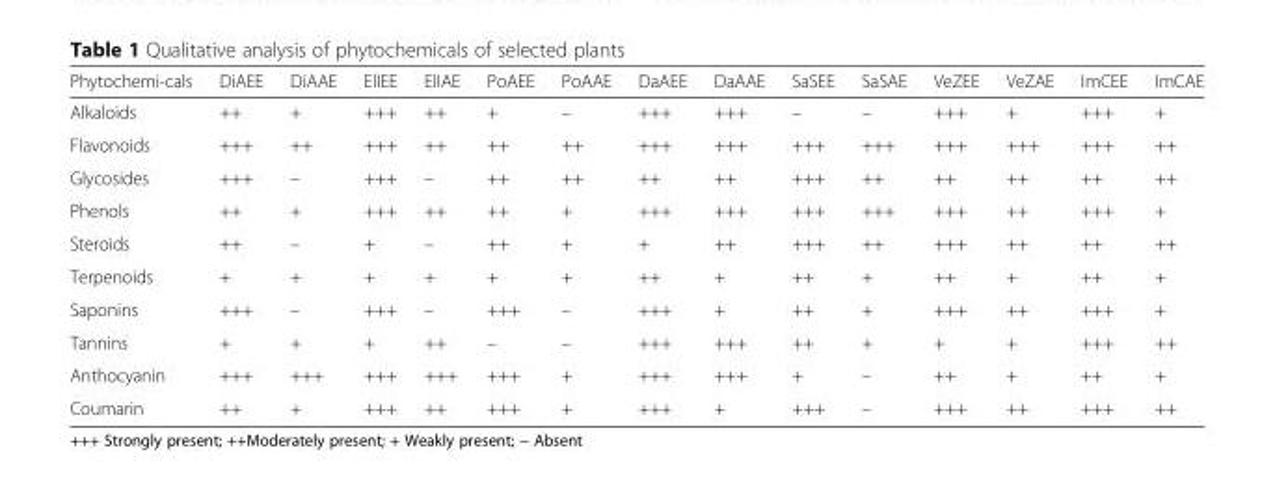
<table><thead><tr><td>Phytochemi-cals</td><td>DiAEE</td><td>DiAAE</td><td>ElIEE</td><td>ElIAE</td><td>PoAEE</td><td>PoAAE</td><td>DaAEE</td><td>DaAAE</td><td>SaSEE</td><td>SaSAE</td><td>VeZEE</td><td>VeZAE</td><td>ImCEE</td><td>ImCAE</td></tr></thead><tbody><tr><td>Alkaloids</td><td>++</td><td>+</td><td>+++</td><td>++</td><td>+</td><td>–</td><td>+++</td><td>+++</td><td>–</td><td>–</td><td>+++</td><td>+</td><td>+++</td><td>+</td></tr><tr><td>Flavonoids</td><td>+++</td><td>++</td><td>+++</td><td>++</td><td>++</td><td>++</td><td>+++</td><td>+++</td><td>+++</td><td>+++</td><td>+++</td><td>+++</td><td>+++</td><td>++</td></tr><tr><td>Glycosides</td><td>+++</td><td>–</td><td>+++</td><td>–</td><td>++</td><td>++</td><td>++</td><td>++</td><td>+++</td><td>++</td><td>++</td><td>++</td><td>++</td><td>++</td></tr><tr><td>Phenols</td><td>++</td><td>+</td><td>+++</td><td>++</td><td>++</td><td>+</td><td>+++</td><td>+++</td><td>+++</td><td>+++</td><td>+++</td><td>++</td><td>+++</td><td>+</td></tr><tr><td>Steroids</td><td>++</td><td>–</td><td>+</td><td>–</td><td>++</td><td>+</td><td>+</td><td>++</td><td>+++</td><td>++</td><td>+++</td><td>++</td><td>++</td><td>++</td></tr><tr><td>Terpenoids</td><td>+</td><td>+</td><td>+</td><td>+</td><td>+</td><td>+</td><td>++</td><td>+</td><td>++</td><td>+</td><td>++</td><td>+</td><td>++</td><td>+</td></tr><tr><td>Saponins</td><td>+++</td><td>–</td><td>+++</td><td>–</td><td>+++</td><td>–</td><td>+++</td><td>+</td><td>++</td><td>+</td><td>+++</td><td>++</td><td>+++</td><td>+</td></tr><tr><td>Tannins</td><td>+</td><td>+</td><td>+</td><td>++</td><td>–</td><td>–</td><td>+++</td><td>+++</td><td>++</td><td>+</td><td>+</td><td>+</td><td>+++</td><td>++</td></tr><tr><td>Anthocyanin</td><td>+++</td><td>+++</td><td>+++</td><td>+++</td><td>+++</td><td>+</td><td>+++</td><td>+++</td><td>+</td><td>–</td><td>++</td><td>+</td><td>++</td><td>+</td></tr><tr><td>Coumarin</td><td>++</td><td>+</td><td>+++</td><td>++</td><td>+++</td><td>+</td><td>+++</td><td>+</td><td>+++</td><td>–</td><td>+++</td><td>++</td><td>+++</td><td>++</td></tr></tbody></table>